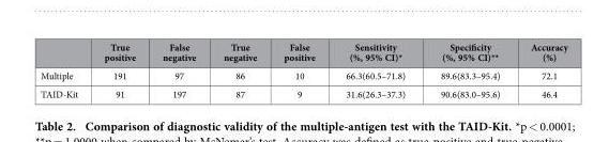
<table><thead><tr><td></td><td>True positive</td><td>False negative</td><td>True negative</td><td>False positive</td><td>Sensitivity (%, 95% CI)*</td><td>Specificity (%, 95% CI)**</td><td>Accuracy (%)</td></tr></thead><tbody><tr><td>Multiple</td><td>191</td><td>97</td><td>86</td><td>10</td><td>66.3(60.5–71.8)</td><td>89.6(83.3–95.4)</td><td>72.1</td></tr><tr><td>TAID-Kit</td><td>91</td><td>197</td><td>87</td><td>9</td><td>31.6(26.3–37.3)</td><td>90.6(83.0–95.6)</td><td>46.4</td></tr></tbody></table>